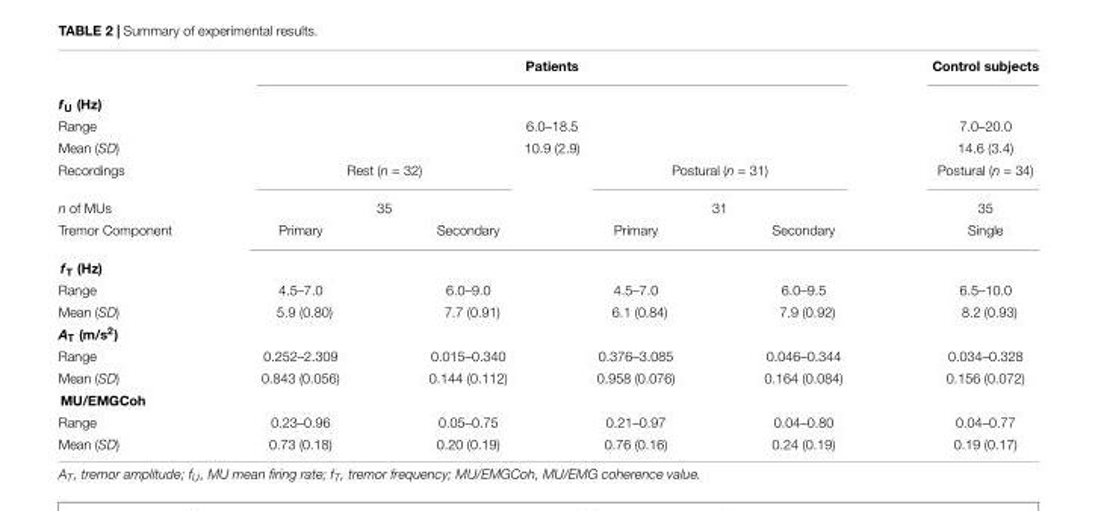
<table><thead><tr><td></td><td colspan="4">Patients</td><td>Control subjects</td></tr></thead><tbody><tr><td colspan="6">f<sub>U</sub> (Hz)</td></tr><tr><td>Range</td><td colspan="4">6.0–18.5</td><td>7.0–20.0</td></tr><tr><td>Mean (SD)</td><td colspan="4">10.9 (2.9)</td><td>14.6 (3.4)</td></tr><tr><td>Recordings</td><td colspan="2">Rest (n = 32)</td><td colspan="2">Postural (n = 31)</td><td>Postural (n = 34)</td></tr><tr><td>n of MUs</td><td colspan="2">35</td><td colspan="2">31</td><td>35</td></tr><tr><td>Tremor Component</td><td>Primary</td><td>Secondary</td><td>Primary</td><td>Secondary</td><td>Single</td></tr><tr><td colspan="6">f<sub>T</sub> (Hz)</td></tr><tr><td>Range</td><td>4.5–7.0</td><td>6.0–9.0</td><td>4.5–7.0</td><td>6.0–9.5</td><td>6.5–10.0</td></tr><tr><td>Mean (SD)</td><td>5.9 (0.80)</td><td>7.7 (0.91)</td><td>6.1 (0.84)</td><td>7.9 (0.92)</td><td>8.2 (0.93)</td></tr><tr><td colspan="6">A<sub>T</sub> (m/s<sup>2</sup>)</td></tr><tr><td>Range</td><td>0.252–2.309</td><td>0.015–0.340</td><td>0.376–3.085</td><td>0.046–0.344</td><td>0.034–0.328</td></tr><tr><td>Mean (SD)</td><td>0.843 (0.056)</td><td>0.144 (0.112)</td><td>0.958 (0.076)</td><td>0.164 (0.084)</td><td>0.156 (0.072)</td></tr><tr><td colspan="6">MU/EMGCoh</td></tr><tr><td>Range</td><td>0.23–0.96</td><td>0.05–0.75</td><td>0.21–0.97</td><td>0.04–0.80</td><td>0.04–0.77</td></tr><tr><td>Mean (SD)</td><td>0.73 (0.18)</td><td>0.20 (0.19)</td><td>0.76 (0.16)</td><td>0.24 (0.19)</td><td>0.19 (0.17)</td></tr></tbody></table>